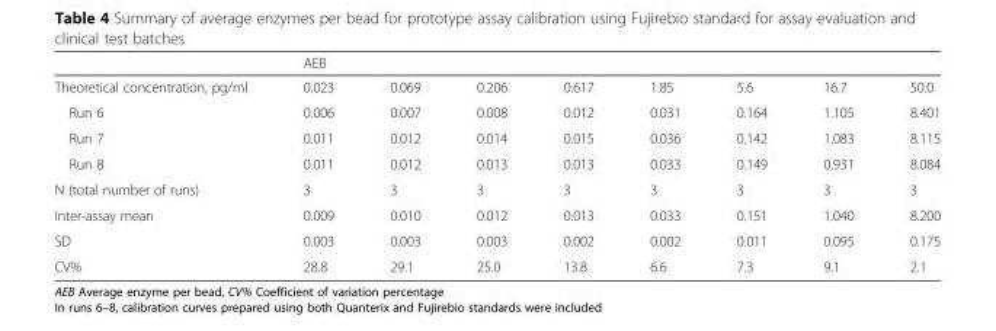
<table><thead><tr><td rowspan="2">Theoretical concentration, pg/ml</td><td colspan="8">AEB</td></tr><tr><td>0.023</td><td>0.069</td><td>0.206</td><td>0.617</td><td>1.85</td><td>5.6</td><td>16.7</td><td>50.0</td></tr></thead><tbody><tr><td>Run 6</td><td>0.006</td><td>0.007</td><td>0.008</td><td>0.012</td><td>0.031</td><td>0.164</td><td>1.105</td><td>8.401</td></tr><tr><td>Run 7</td><td>0.011</td><td>0.012</td><td>0.014</td><td>0.015</td><td>0.036</td><td>0.142</td><td>1.083</td><td>8.115</td></tr><tr><td>Run 8</td><td>0.011</td><td>0.012</td><td>0.013</td><td>0.013</td><td>0.033</td><td>0.149</td><td>0.931</td><td>8.084</td></tr><tr><td>N (total number of runs)</td><td>3</td><td>3</td><td>3</td><td>3</td><td>3</td><td>3</td><td>3</td><td>3</td></tr><tr><td>Inter-assay mean</td><td>0.009</td><td>0.010</td><td>0.012</td><td>0.013</td><td>0.033</td><td>0.151</td><td>1.040</td><td>8.200</td></tr><tr><td>SD</td><td>0.003</td><td>0.003</td><td>0.003</td><td>0.002</td><td>0.002</td><td>0.011</td><td>0.095</td><td>0.175</td></tr><tr><td>CV%</td><td>28.8</td><td>29.1</td><td>25.0</td><td>13.8</td><td>6.6</td><td>7.3</td><td>9.1</td><td>2.1</td></tr></tbody></table>